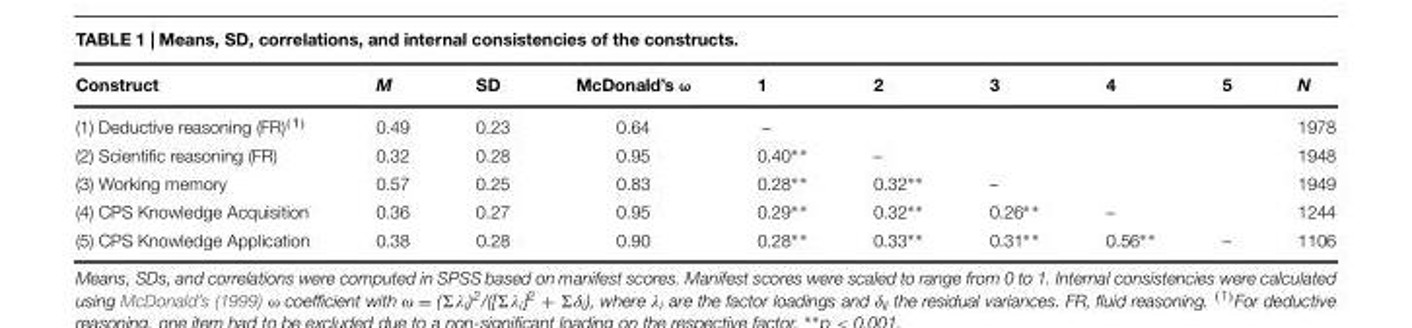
<table><thead><tr><td>Construct</td><td>M</td><td>SD</td><td>McDonald’s ω</td><td>1</td><td>2</td><td>3</td><td>4</td><td>5</td><td>N</td></tr></thead><tbody><tr><td>(1) Deductive reasoning (FR)<sup>(1)</sup></td><td>0.49</td><td>0.23</td><td>0.64</td><td>–</td><td></td><td></td><td></td><td></td><td>1978</td></tr><tr><td>(2) Scientific reasoning (FR)</td><td>0.32</td><td>0.28</td><td>0.95</td><td>0.40∗∗</td><td>–</td><td></td><td></td><td></td><td>1948</td></tr><tr><td>(3) Working memory</td><td>0.57</td><td>0.25</td><td>0.83</td><td>0.28∗∗</td><td>0.32∗∗</td><td>–</td><td></td><td></td><td>1949</td></tr><tr><td>(4) CPS Knowledge Acquisition</td><td>0.36</td><td>0.27</td><td>0.95</td><td>0.29∗∗</td><td>0.32∗∗</td><td>0.26∗∗</td><td>–</td><td></td><td>1244</td></tr><tr><td>(5) CPS Knowledge Application</td><td>0.38</td><td>0.28</td><td>0.90</td><td>0.28∗∗</td><td>0.33∗∗</td><td>0.31∗∗</td><td>0.56∗∗</td><td>–</td><td>1106</td></tr></tbody></table>